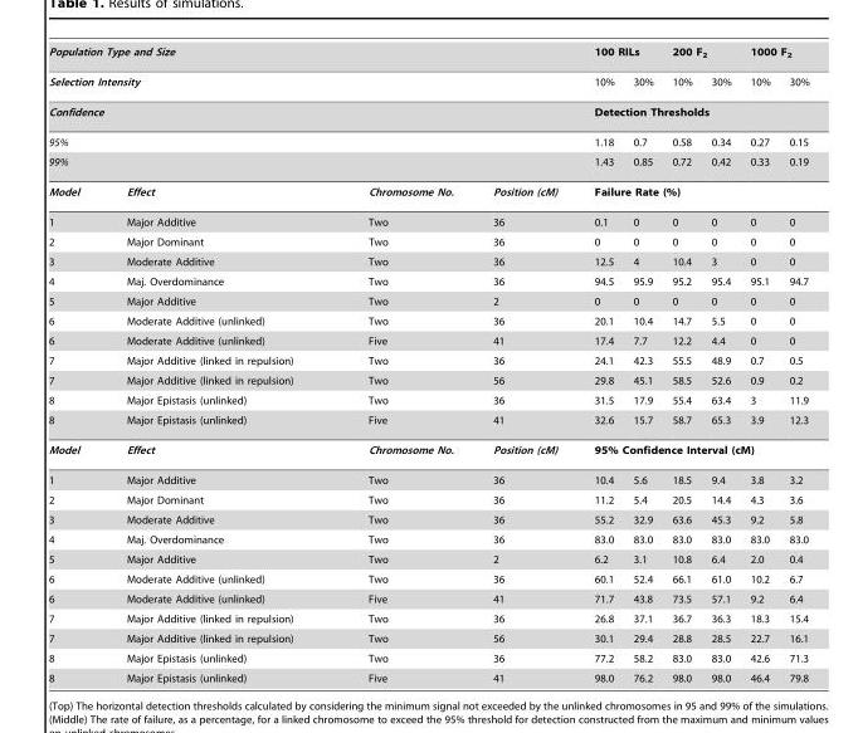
<table><tbody><tr><td colspan="4">Population Type and Size</td><td colspan="2">100 RILs</td><td colspan="2">200 F<sub>2</sub></td><td colspan="2">1000 F<sub>2</sub></td></tr><tr><td colspan="4">Selection Intensity</td><td>10%</td><td>30%</td><td>10%</td><td>30%</td><td>10%</td><td>30%</td></tr><tr><td colspan="4">Confidence</td><td colspan="6">Detection Thresholds</td></tr><tr><td colspan="4">95%</td><td>1.18</td><td>0.7</td><td>0.58</td><td>0.34</td><td>0.27</td><td>0.15</td></tr><tr><td colspan="4">99%</td><td>1.43</td><td>0.85</td><td>0.72</td><td>0.42</td><td>0.33</td><td>0.19</td></tr><tr><td>Model</td><td>Effect</td><td>Chromosome No.</td><td>Position (cM)</td><td colspan="6">Failure Rate (%)</td></tr><tr><td>1</td><td>Major Additive</td><td>Two</td><td>36</td><td>0.1</td><td>0</td><td>0</td><td>0</td><td>0</td><td>0</td></tr><tr><td>2</td><td>Major Dominant</td><td>Two</td><td>36</td><td>0</td><td>0</td><td>0</td><td>0</td><td>0</td><td>0</td></tr><tr><td>3</td><td>Moderate Additive</td><td>Two</td><td>36</td><td>12.5</td><td>4</td><td>10.4</td><td>3</td><td>0</td><td>0</td></tr><tr><td>4</td><td>Maj. Overdominance</td><td>Two</td><td>36</td><td>94.5</td><td>95.9</td><td>95.2</td><td>95.4</td><td>95.1</td><td>94.7</td></tr><tr><td>5</td><td>Major Additive</td><td>Two</td><td>2</td><td>0</td><td>0</td><td>0</td><td>0</td><td>0</td><td>0</td></tr><tr><td>6</td><td>Moderate Additive (unlinked)</td><td>Two</td><td>36</td><td>20.1</td><td>10.4</td><td>14.7</td><td>5.5</td><td>0</td><td>0</td></tr><tr><td>6</td><td>Moderate Additive (unlinked)</td><td>Five</td><td>41</td><td>17.4</td><td>7.7</td><td>12.2</td><td>4.4</td><td>0</td><td>0</td></tr><tr><td>7</td><td>Major Additive (linked in repulsion)</td><td>Two</td><td>36</td><td>24.1</td><td>42.3</td><td>55.5</td><td>48.9</td><td>0.7</td><td>0.5</td></tr><tr><td>7</td><td>Major Additive (linked in repulsion)</td><td>Two</td><td>56</td><td>29.8</td><td>45.1</td><td>58.5</td><td>52.6</td><td>0.9</td><td>0.2</td></tr><tr><td>8</td><td>Major Epistasis (unlinked)</td><td>Two</td><td>36</td><td>31.5</td><td>17.9</td><td>55.4</td><td>63.4</td><td>3</td><td>11.9</td></tr><tr><td>8</td><td>Major Epistasis (unlinked)</td><td>Five</td><td>41</td><td>32.6</td><td>15.7</td><td>58.7</td><td>65.3</td><td>3.9</td><td>12.3</td></tr><tr><td>Model</td><td>Effect</td><td>Chromosome No.</td><td>Position (cM)</td><td colspan="6">95% Confidence Interval (cM)</td></tr><tr><td>1</td><td>Major Additive</td><td>Two</td><td>36</td><td>10.4</td><td>5.6</td><td>18.5</td><td>9.4</td><td>3.8</td><td>3.2</td></tr><tr><td>2</td><td>Major Dominant</td><td>Two</td><td>36</td><td>11.2</td><td>5.4</td><td>20.5</td><td>14.4</td><td>4.3</td><td>3.6</td></tr><tr><td>3</td><td>Moderate Additive</td><td>Two</td><td>36</td><td>55.2</td><td>32.9</td><td>63.6</td><td>45.3</td><td>9.2</td><td>5.8</td></tr><tr><td>4</td><td>Maj. Overdominance</td><td>Two</td><td>36</td><td>83.0</td><td>83.0</td><td>83.0</td><td>83.0</td><td>83.0</td><td>83.0</td></tr><tr><td>5</td><td>Major Additive</td><td>Two</td><td>2</td><td>6.2</td><td>3.1</td><td>10.8</td><td>6.4</td><td>2.0</td><td>0.4</td></tr><tr><td>6</td><td>Moderate Additive (unlinked)</td><td>Two</td><td>36</td><td>60.1</td><td>52.4</td><td>66.1</td><td>61.0</td><td>10.2</td><td>6.7</td></tr><tr><td>6</td><td>Moderate Additive (unlinked)</td><td>Five</td><td>41</td><td>71.7</td><td>43.8</td><td>73.5</td><td>57.1</td><td>9.2</td><td>6.4</td></tr><tr><td>7</td><td>Major Additive (linked in repulsion)</td><td>Two</td><td>36</td><td>26.8</td><td>37.1</td><td>36.7</td><td>36.3</td><td>18.3</td><td>15.4</td></tr><tr><td>7</td><td>Major Additive (linked in repulsion)</td><td>Two</td><td>56</td><td>30.1</td><td>29.4</td><td>28.8</td><td>28.5</td><td>22.7</td><td>16.1</td></tr><tr><td>8</td><td>Major Epistasis (unlinked)</td><td>Two</td><td>36</td><td>77.2</td><td>58.2</td><td>83.0</td><td>83.0</td><td>42.6</td><td>71.3</td></tr><tr><td>8</td><td>Major Epistasis (unlinked)</td><td>Five</td><td>41</td><td>98.0</td><td>76.2</td><td>98.0</td><td>98.0</td><td>46.4</td><td>79.8</td></tr></tbody></table>